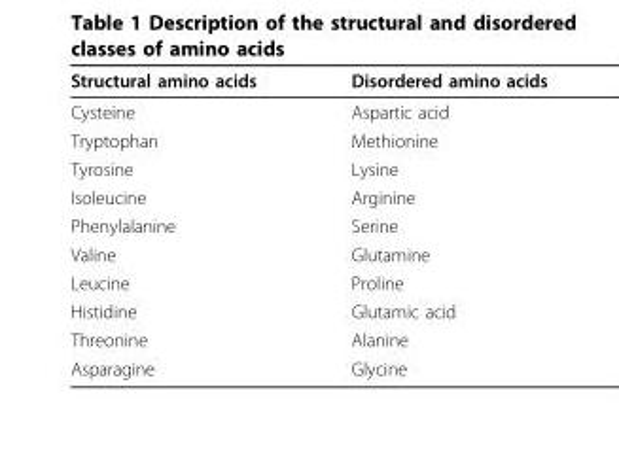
<table><thead><tr><td>Structural amino acids</td><td>Disordered amino acids</td></tr></thead><tbody><tr><td>Cysteine</td><td>Aspartic acid</td></tr><tr><td>Tryptophan</td><td>Methionine</td></tr><tr><td>Tyrosine</td><td>Lysine</td></tr><tr><td>Isoleucine</td><td>Arginine</td></tr><tr><td>Phenylalanine</td><td>Serine</td></tr><tr><td>Valine</td><td>Glutamine</td></tr><tr><td>Leucine</td><td>Proline</td></tr><tr><td>Histidine</td><td>Glutamic acid</td></tr><tr><td>Threonine</td><td>Alanine</td></tr><tr><td>Asparagine</td><td>Glycine</td></tr></tbody></table>